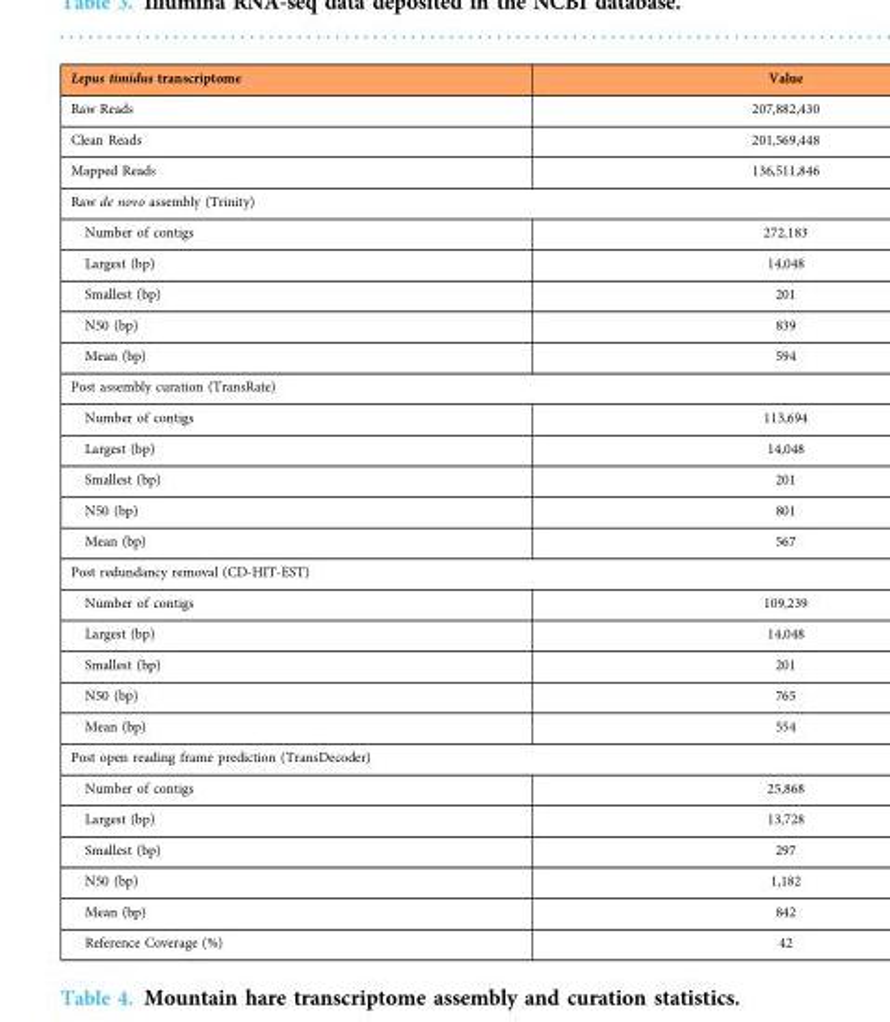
<table><thead><tr><td>Lepus timidus transcriptome</td><td>Value</td></tr></thead><tbody><tr><td>Raw Reads</td><td>207,882,430</td></tr><tr><td>Clean Reads</td><td>201,569,448</td></tr><tr><td>Mapped Reads</td><td>136,511,846</td></tr><tr><td colspan="2">Raw de novo assembly (Trinity)</td></tr><tr><td>Number of contigs</td><td>272,183</td></tr><tr><td>Largest (bp)</td><td>14,048</td></tr><tr><td>Smallest (bp)</td><td>201</td></tr><tr><td>N50 (bp)</td><td>839</td></tr><tr><td>Mean (bp)</td><td>594</td></tr><tr><td colspan="2">Post assembly curation (TransRate)</td></tr><tr><td>Number of contigs</td><td>113,694</td></tr><tr><td>Largest (bp)</td><td>14,048</td></tr><tr><td>Smallest (bp)</td><td>201</td></tr><tr><td>N50 (bp)</td><td>801</td></tr><tr><td>Mean (bp)</td><td>567</td></tr><tr><td colspan="2">Post redundancy removal (CD-HIT-EST)</td></tr><tr><td>Number of contigs</td><td>109,239</td></tr><tr><td>Largest (bp)</td><td>14,048</td></tr><tr><td>Smallest (bp)</td><td>201</td></tr><tr><td>N50 (bp)</td><td>765</td></tr><tr><td>Mean (bp)</td><td>554</td></tr><tr><td colspan="2">Post open reading frame prediction (TransDecoder)</td></tr><tr><td>Number of contigs</td><td>25,868</td></tr><tr><td>Largest (bp)</td><td>13,728</td></tr><tr><td>Smallest (bp)</td><td>297</td></tr><tr><td>N50 (bp)</td><td>1,182</td></tr><tr><td>Mean (bp)</td><td>842</td></tr><tr><td>Reference Coverage (%)</td><td>42</td></tr></tbody></table>